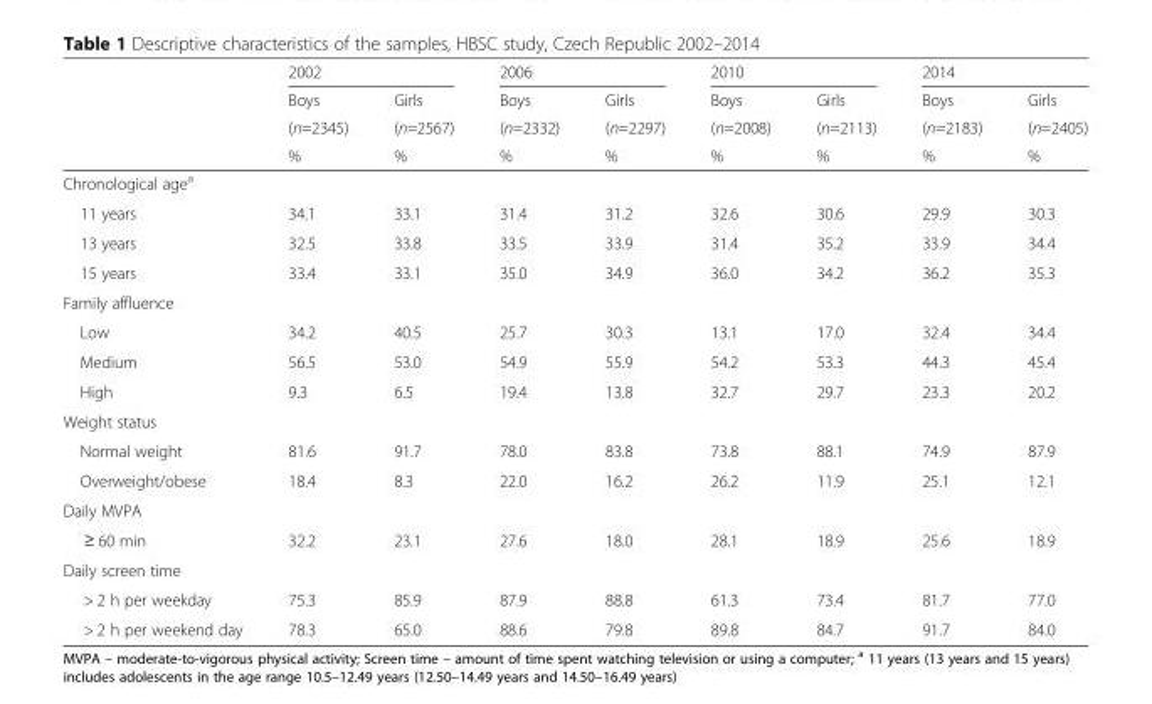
<table><thead><tr><td rowspan="4"></td><td colspan="2">2002</td><td colspan="2">2006</td><td colspan="2">2010</td><td colspan="2">2014</td></tr><tr><td rowspan="3">Boys (n=2345) %</td><td rowspan="3">Girls (n=2567) %</td><td rowspan="3">Boys (n=2332) %</td><td rowspan="3">Girls (n=2297) %</td><td rowspan="3">Boys (n=2008) %</td><td rowspan="3">Girls (n=2113) %</td><td rowspan="3">Boys (n=2183) %</td><td rowspan="3">Girls (n=2405) %</td></tr><tr></tr><tr></tr></thead><tbody><tr><td colspan="9">Chronological age<sup>a</sup></td></tr><tr><td>11 years</td><td>34.1</td><td>33.1</td><td>31.4</td><td>31.2</td><td>32.6</td><td>30.6</td><td>29.9</td><td>30.3</td></tr><tr><td>13 years</td><td>32.5</td><td>33.8</td><td>33.5</td><td>33.9</td><td>31.4</td><td>35.2</td><td>33.9</td><td>34.4</td></tr><tr><td>15 years</td><td>33.4</td><td>33.1</td><td>35.0</td><td>34.9</td><td>36.0</td><td>34.2</td><td>36.2</td><td>35.3</td></tr><tr><td colspan="9">Family affluence</td></tr><tr><td>Low</td><td>34.2</td><td>40.5</td><td>25.7</td><td>30.3</td><td>13.1</td><td>17.0</td><td>32.4</td><td>34.4</td></tr><tr><td>Medium</td><td>56.5</td><td>53.0</td><td>54.9</td><td>55.9</td><td>54.2</td><td>53.3</td><td>44.3</td><td>45.4</td></tr><tr><td>High</td><td>9.3</td><td>6.5</td><td>19.4</td><td>13.8</td><td>32.7</td><td>29.7</td><td>23.3</td><td>20.2</td></tr><tr><td colspan="9">Weight status</td></tr><tr><td>Normal weight</td><td>81.6</td><td>91.7</td><td>78.0</td><td>83.8</td><td>73.8</td><td>88.1</td><td>74.9</td><td>87.9</td></tr><tr><td>Overweight/obese</td><td>18.4</td><td>8.3</td><td>22.0</td><td>16.2</td><td>26.2</td><td>11.9</td><td>25.1</td><td>12.1</td></tr><tr><td colspan="9">Daily MVPA</td></tr><tr><td>≥ 60 min</td><td>32.2</td><td>23.1</td><td>27.6</td><td>18.0</td><td>28.1</td><td>18.9</td><td>25.6</td><td>18.9</td></tr><tr><td colspan="9">Daily screen time</td></tr><tr><td>&gt; 2 h per weekday</td><td>75.3</td><td>85.9</td><td>87.9</td><td>88.8</td><td>61.3</td><td>73.4</td><td>81.7</td><td>77.0</td></tr><tr><td>&gt; 2 h per weekend day</td><td>78.3</td><td>65.0</td><td>88.6</td><td>79.8</td><td>89.8</td><td>84.7</td><td>91.7</td><td>84.0</td></tr></tbody></table>